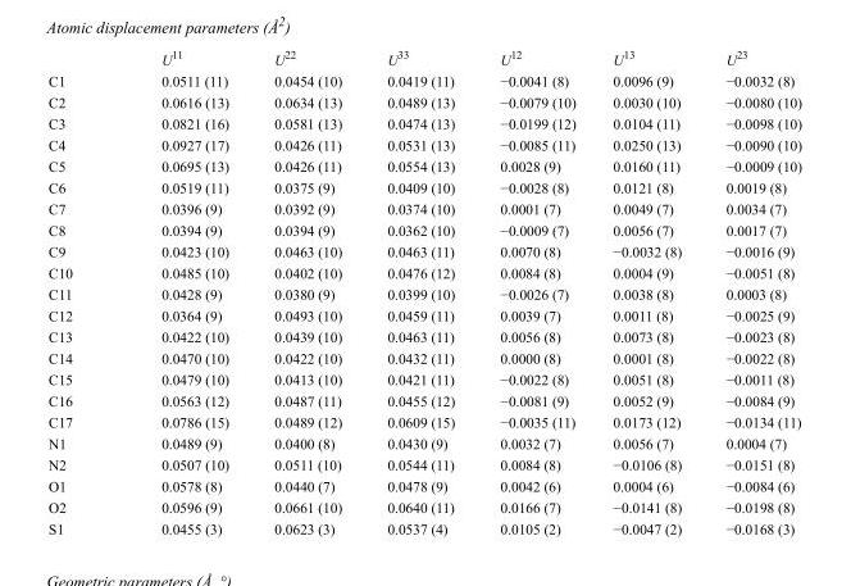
<table><thead><tr><td></td><td>U<sup>11</sup></td><td>U<sup>22</sup></td><td>U<sup>33</sup></td><td>U<sup>12</sup></td><td>U<sup>13</sup></td><td>U<sup>23</sup></td></tr></thead><tbody><tr><td>C1</td><td>0.0511 (11)</td><td>0.0454 (10)</td><td>0.0419 (11)</td><td>−0.0041 (8)</td><td>0.0096 (9)</td><td>−0.0032 (8)</td></tr><tr><td>C2</td><td>0.0616 (13)</td><td>0.0634 (13)</td><td>0.0489 (13)</td><td>−0.0079 (10)</td><td>0.0030 (10)</td><td>−0.0080 (10)</td></tr><tr><td>C3</td><td>0.0821 (16)</td><td>0.0581 (13)</td><td>0.0474 (13)</td><td>−0.0199 (12)</td><td>0.0104 (11)</td><td>−0.0098 (10)</td></tr><tr><td>C4</td><td>0.0927 (17)</td><td>0.0426 (11)</td><td>0.0531 (13)</td><td>−0.0085 (11)</td><td>0.0250 (13)</td><td>−0.0090 (10)</td></tr><tr><td>C5</td><td>0.0695 (13)</td><td>0.0426 (11)</td><td>0.0554 (13)</td><td>0.0028 (9)</td><td>0.0160 (11)</td><td>−0.0009 (10)</td></tr><tr><td>C6</td><td>0.0519 (11)</td><td>0.0375 (9)</td><td>0.0409 (10)</td><td>−0.0028 (8)</td><td>0.0121 (8)</td><td>0.0019 (8)</td></tr><tr><td>C7</td><td>0.0396 (9)</td><td>0.0392 (9)</td><td>0.0374 (10)</td><td>0.0001 (7)</td><td>0.0049 (7)</td><td>0.0034 (7)</td></tr><tr><td>C8</td><td>0.0394 (9)</td><td>0.0394 (9)</td><td>0.0362 (10)</td><td>−0.0009 (7)</td><td>0.0056 (7)</td><td>0.0017 (7)</td></tr><tr><td>C9</td><td>0.0423 (10)</td><td>0.0463 (10)</td><td>0.0463 (11)</td><td>0.0070 (8)</td><td>−0.0032 (8)</td><td>−0.0016 (9)</td></tr><tr><td>C10</td><td>0.0485 (10)</td><td>0.0402 (10)</td><td>0.0476 (12)</td><td>0.0084 (8)</td><td>0.0004 (9)</td><td>−0.0051 (8)</td></tr><tr><td>C11</td><td>0.0428 (9)</td><td>0.0380 (9)</td><td>0.0399 (10)</td><td>−0.0026 (7)</td><td>0.0038 (8)</td><td>0.0003 (8)</td></tr><tr><td>C12</td><td>0.0364 (9)</td><td>0.0493 (10)</td><td>0.0459 (11)</td><td>0.0039 (7)</td><td>0.0011 (8)</td><td>−0.0025 (9)</td></tr><tr><td>C13</td><td>0.0422 (10)</td><td>0.0439 (10)</td><td>0.0463 (11)</td><td>0.0056 (8)</td><td>0.0073 (8)</td><td>−0.0023 (8)</td></tr><tr><td>C14</td><td>0.0470 (10)</td><td>0.0422 (10)</td><td>0.0432 (11)</td><td>0.0000 (8)</td><td>0.0001 (8)</td><td>−0.0022 (8)</td></tr><tr><td>C15</td><td>0.0479 (10)</td><td>0.0413 (10)</td><td>0.0421 (11)</td><td>−0.0022 (8)</td><td>0.0051 (8)</td><td>−0.0011 (8)</td></tr><tr><td>C16</td><td>0.0563 (12)</td><td>0.0487 (11)</td><td>0.0455 (12)</td><td>−0.0081 (9)</td><td>0.0052 (9)</td><td>−0.0084 (9)</td></tr><tr><td>C17</td><td>0.0786 (15)</td><td>0.0489 (12)</td><td>0.0609 (15)</td><td>−0.0035 (11)</td><td>0.0173 (12)</td><td>−0.0134 (11)</td></tr><tr><td>N1</td><td>0.0489 (9)</td><td>0.0400 (8)</td><td>0.0430 (9)</td><td>0.0032 (7)</td><td>0.0056 (7)</td><td>0.0004 (7)</td></tr><tr><td>N2</td><td>0.0507 (10)</td><td>0.0511 (10)</td><td>0.0544 (11)</td><td>0.0084 (8)</td><td>−0.0106 (8)</td><td>−0.0151 (8)</td></tr><tr><td>O1</td><td>0.0578 (8)</td><td>0.0440 (7)</td><td>0.0478 (9)</td><td>0.0042 (6)</td><td>0.0004 (6)</td><td>−0.0084 (6)</td></tr><tr><td>O2</td><td>0.0596 (9)</td><td>0.0661 (10)</td><td>0.0640 (11)</td><td>0.0166 (7)</td><td>−0.0141 (8)</td><td>−0.0198 (8)</td></tr><tr><td>S1</td><td>0.0455 (3)</td><td>0.0623 (3)</td><td>0.0537 (4)</td><td>0.0105 (2)</td><td>−0.0047 (2)</td><td>−0.0168 (3)</td></tr></tbody></table>